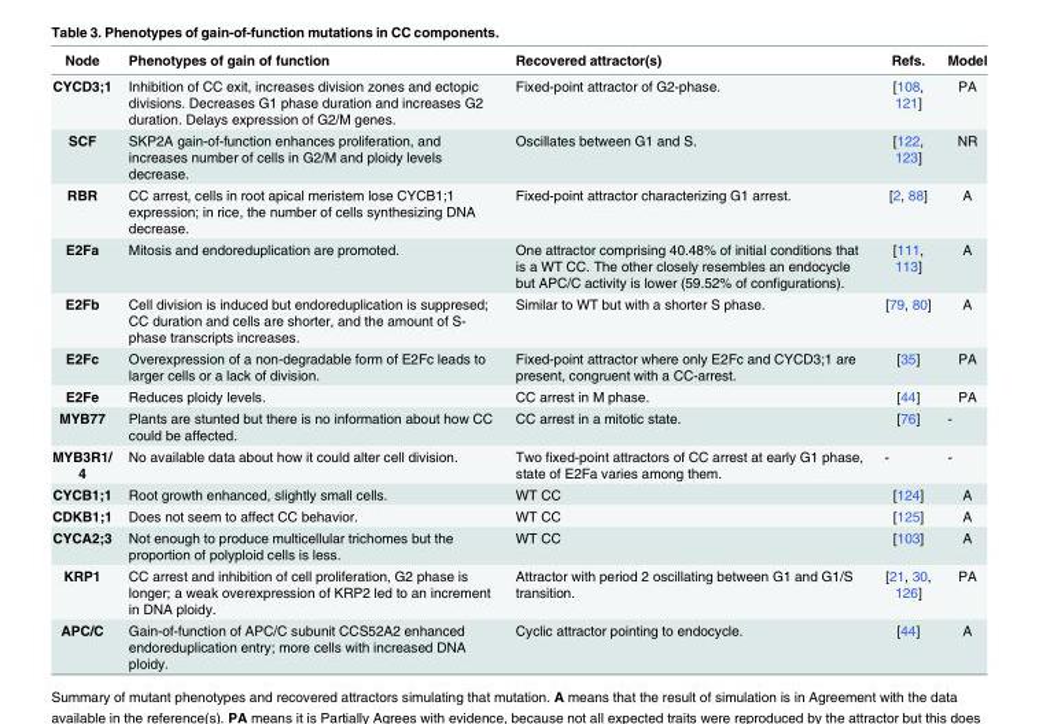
<table><thead><tr><td>Node</td><td>Phenotypes of gain of function</td><td>Recovered attractor(s)</td><td>Refs.</td><td>Model</td></tr></thead><tbody><tr><td>CYCD3;1</td><td>Inhibition of CC exit, increases division zones and ectopic divisions. Decreases G1 phase duration and increases G2 duration. Delays expression of G2/M genes.</td><td>Fixed-point attractor of G2-phase.</td><td>[108, 121]</td><td>PA</td></tr><tr><td>SCF</td><td>SKP2A gain-of-function enhances proliferation, and increases number of cells in G2/M and ploidy levels decrease.</td><td>Oscillates between G1 and S.</td><td>[122, 123]</td><td>NR</td></tr><tr><td>RBR</td><td>CC arrest, cells in root apical meristem lose CYCB1;1 expression; in rice, the number of cells synthesizing DNA decrease.</td><td>Fixed-point attractor characterizing G1 arrest.</td><td>[2, 88]</td><td>A</td></tr><tr><td>E2Fa</td><td>Mitosis and endoreduplication are promoted.</td><td>One attractor comprising 40.48% of initial conditions that is a WT CC. The other closely resembles an endocycle but APC/C activity is lower (59.52% of configurations).</td><td>[111, 113]</td><td>A</td></tr><tr><td>E2Fb</td><td>Cell division is induced but endoreduplication is suppresed; CC duration and cells are shorter, and the amount of S- phase transcripts increases.</td><td>Similar to WT but with a shorter S phase.</td><td>[79, 80]</td><td>A</td></tr><tr><td>E2Fc</td><td>Overexpression of a non-degradable form of E2Fc leads to larger cells or a lack of division.</td><td>Fixed-point attractor where only E2Fc and CYCD3;1 are present, congruent with a CC-arrest.</td><td>[35]</td><td>PA</td></tr><tr><td>E2Fe</td><td>Reduces ploidy levels.</td><td>CC arrest in M phase.</td><td>[44]</td><td>PA</td></tr><tr><td>MYB77</td><td>Plants are stunted but there is no information about how CC could be affected.</td><td>CC arrest in a mitotic state.</td><td>[76]</td><td>-</td></tr><tr><td>MYB3R1/ 4</td><td>No available data about how it could alter cell division.</td><td>Two fixed-point attractors of CC arrest at early G1 phase, state of E2Fa varies among them.</td><td>-</td><td>-</td></tr><tr><td>CYCB1;1</td><td>Root growth enhanced, slightly small cells.</td><td>WT CC</td><td>[124]</td><td>A</td></tr><tr><td>CDKB1;1</td><td>Does not seem to affect CC behavior.</td><td>WT CC</td><td>[125]</td><td>A</td></tr><tr><td>CYCA2;3</td><td>Not enough to produce multicellular trichomes but the proportion of polyploid cells is less.</td><td>WT CC</td><td>[103]</td><td>A</td></tr><tr><td>KRP1</td><td>CC arrest and inhibition of cell proliferation, G2 phase is longer; a weak overexpression of KRP2 led to an increment in DNA ploidy.</td><td>Attractor with period 2 oscillating between G1 and G1/S transition.</td><td>[21, 30, 126]</td><td>PA</td></tr><tr><td>APC/C</td><td>Gain-of-function of APC/C subunit CCS52A2 enhanced endoreduplication entry; more cells with increased DNA ploidy.</td><td>Cyclic attractor pointing to endocycle.</td><td>[44]</td><td>A</td></tr></tbody></table>